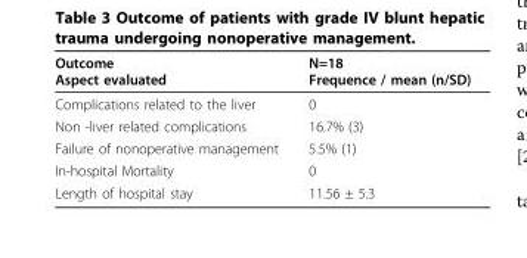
<table><thead><tr><td>Outcome Aspect evaluated</td><td>N=18 Frequence / mean (n/SD)</td></tr></thead><tbody><tr><td>Complications related to the liver</td><td>0</td></tr><tr><td>Non -liver related complications</td><td>16.7% (3)</td></tr><tr><td>Failure of nonoperative management</td><td>5.5% (1)</td></tr><tr><td>In-hospital Mortality</td><td>0</td></tr><tr><td>Length of hospital stay</td><td>11.56 ± 5.3</td></tr></tbody></table>